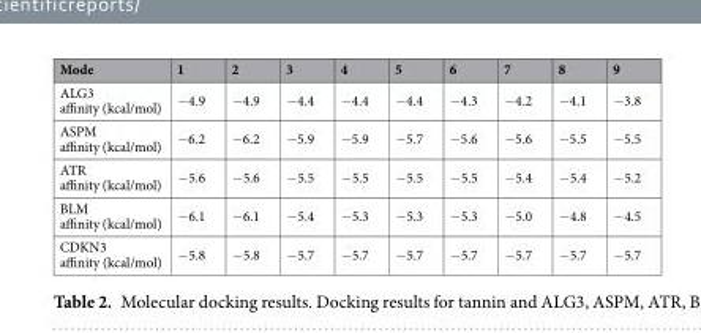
<table><thead><tr><td>Mode</td><td>1</td><td>2</td><td>3</td><td>4</td><td>5</td><td>6</td><td>7</td><td>8</td><td>9</td></tr></thead><tbody><tr><td>ALG3 affinity (kcal/mol)</td><td>−4.9</td><td>−4.9</td><td>−4.4</td><td>−4.4</td><td>−4.4</td><td>−4.3</td><td>−4.2</td><td>−4.1</td><td>−3.8</td></tr><tr><td>ASPM affinity (kcal/mol)</td><td>−6.2</td><td>−6.2</td><td>−5.9</td><td>−5.9</td><td>−5.7</td><td>−5.6</td><td>−5.6</td><td>−5.5</td><td>−5.5</td></tr><tr><td>ATR affinity (kcal/mol)</td><td>−5.6</td><td>−5.6</td><td>−5.5</td><td>−5.5</td><td>−5.5</td><td>−5.5</td><td>−5.4</td><td>−5.4</td><td>−5.2</td></tr><tr><td>BLM affinity (kcal/mol)</td><td>−6.1</td><td>−6.1</td><td>−5.4</td><td>−5.3</td><td>−5.3</td><td>−5.3</td><td>−5.0</td><td>−4.8</td><td>−4.5</td></tr><tr><td>CDKN3 affinity (kcal/mol)</td><td>−5.8</td><td>−5.8</td><td>−5.7</td><td>−5.7</td><td>−5.7</td><td>−5.7</td><td>−5.7</td><td>−5.7</td><td>−5.7</td></tr></tbody></table>